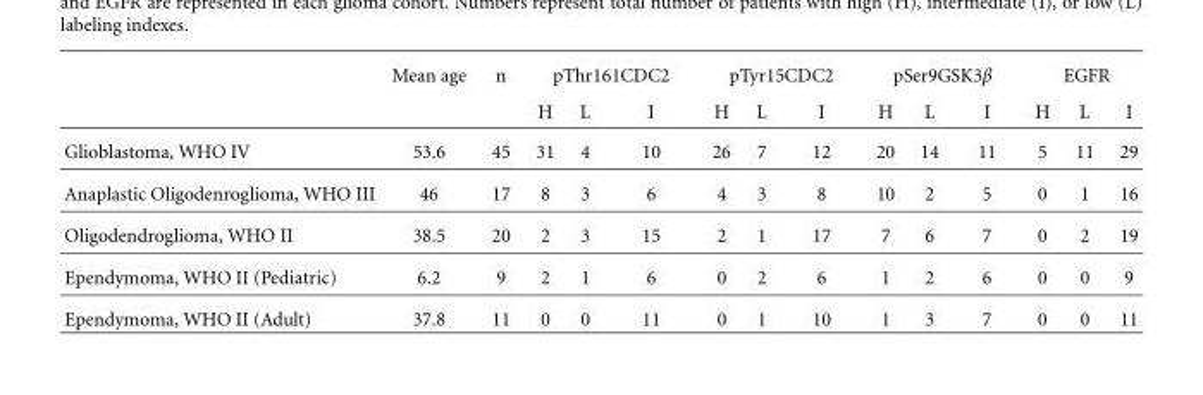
<table><thead><tr><td rowspan="2"></td><td rowspan="2">Mean age</td><td rowspan="2">n</td><td colspan="3">pThr161CDC2</td><td colspan="3">pTyr15CDC2</td><td colspan="3">pSer9GSK3β</td><td colspan="3">EGFR</td></tr><tr><td>H</td><td>L</td><td>I</td><td>H</td><td>L</td><td>I</td><td>H</td><td>L</td><td>I</td><td>H</td><td>L</td><td>I</td></tr></thead><tbody><tr><td>Glioblastoma, WHO IV</td><td>53.6</td><td>45</td><td>31</td><td>4</td><td>10</td><td>26</td><td>7</td><td>12</td><td>20</td><td>14</td><td>11</td><td>5</td><td>11</td><td>29</td></tr><tr><td>Anaplastic Oligodenroglioma, WHO III</td><td>46</td><td>17</td><td>8</td><td>3</td><td>6</td><td>4</td><td>3</td><td>8</td><td>10</td><td>2</td><td>5</td><td>0</td><td>1</td><td>16</td></tr><tr><td>Oligodendroglioma, WHO II</td><td>38.5</td><td>20</td><td>2</td><td>3</td><td>15</td><td>2</td><td>1</td><td>17</td><td>7</td><td>6</td><td>7</td><td>0</td><td>2</td><td>19</td></tr><tr><td>Ependymoma, WHO II (Pediatric)</td><td>6.2</td><td>9</td><td>2</td><td>1</td><td>6</td><td>0</td><td>2</td><td>6</td><td>1</td><td>2</td><td>6</td><td>0</td><td>0</td><td>9</td></tr><tr><td>Ependymoma, WHO II (Adult)</td><td>37.8</td><td>11</td><td>0</td><td>0</td><td>11</td><td>0</td><td>1</td><td>10</td><td>1</td><td>3</td><td>7</td><td>0</td><td>0</td><td>11</td></tr></tbody></table>